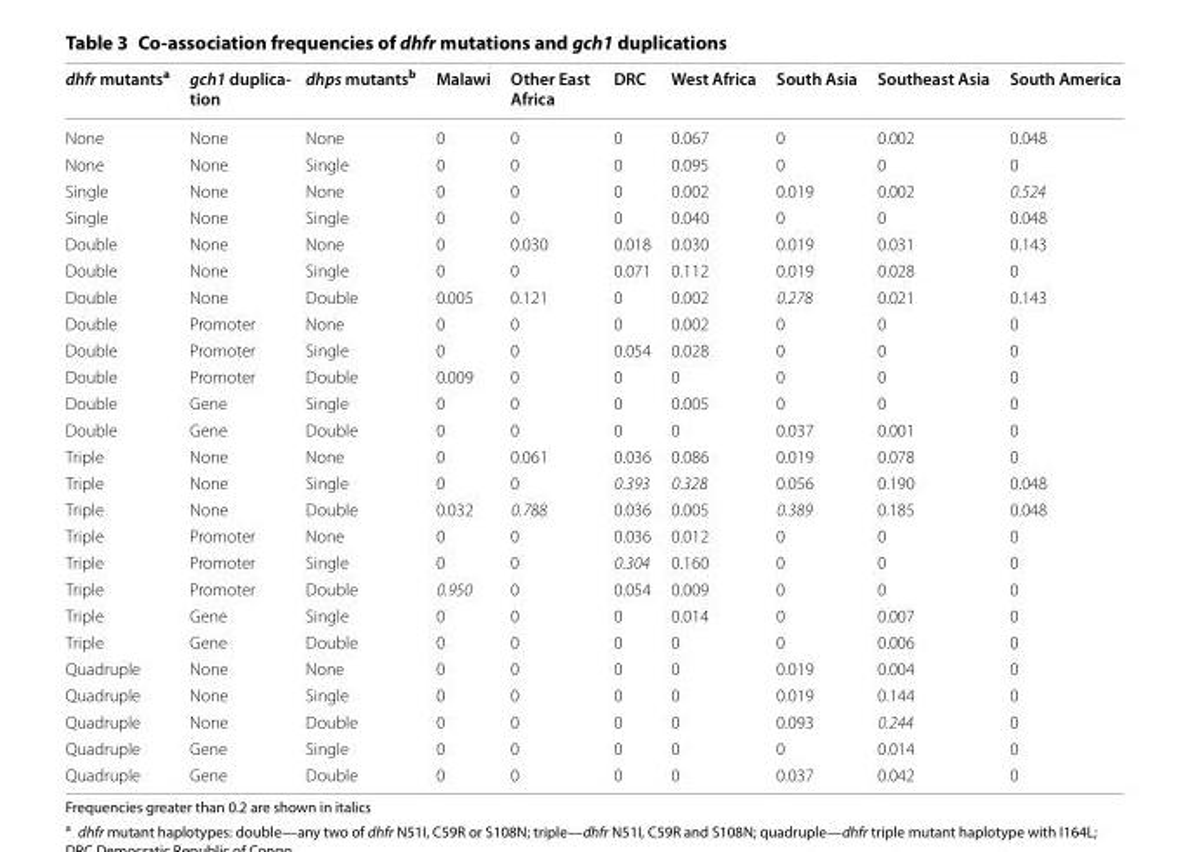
<table><thead><tr><td>dhfr mutants<sup>a</sup></td><td>gch1 duplica‑ tion</td><td>dhps mutants<sup>b</sup></td><td>Malawi</td><td>Other East Africa</td><td>DRC</td><td>West Africa</td><td>South Asia</td><td>Southeast Asia</td><td>South America</td></tr></thead><tbody><tr><td>None</td><td>None</td><td>None</td><td>0</td><td>0</td><td>0</td><td>0.067</td><td>0</td><td>0.002</td><td>0.048</td></tr><tr><td>None</td><td>None</td><td>Single</td><td>0</td><td>0</td><td>0</td><td>0.095</td><td>0</td><td>0</td><td>0</td></tr><tr><td>Single</td><td>None</td><td>None</td><td>0</td><td>0</td><td>0</td><td>0.002</td><td>0.019</td><td>0.002</td><td>0.524</td></tr><tr><td>Single</td><td>None</td><td>Single</td><td>0</td><td>0</td><td>0</td><td>0.040</td><td>0</td><td>0</td><td>0.048</td></tr><tr><td>Double</td><td>None</td><td>None</td><td>0</td><td>0.030</td><td>0.018</td><td>0.030</td><td>0.019</td><td>0.031</td><td>0.143</td></tr><tr><td>Double</td><td>None</td><td>Single</td><td>0</td><td>0</td><td>0.071</td><td>0.112</td><td>0.019</td><td>0.028</td><td>0</td></tr><tr><td>Double</td><td>None</td><td>Double</td><td>0.005</td><td>0.121</td><td>0</td><td>0.002</td><td>0.278</td><td>0.021</td><td>0.143</td></tr><tr><td>Double</td><td>Promoter</td><td>None</td><td>0</td><td>0</td><td>0</td><td>0.002</td><td>0</td><td>0</td><td>0</td></tr><tr><td>Double</td><td>Promoter</td><td>Single</td><td>0</td><td>0</td><td>0.054</td><td>0.028</td><td>0</td><td>0</td><td>0</td></tr><tr><td>Double</td><td>Promoter</td><td>Double</td><td>0.009</td><td>0</td><td>0</td><td>0</td><td>0</td><td>0</td><td>0</td></tr><tr><td>Double</td><td>Gene</td><td>Single</td><td>0</td><td>0</td><td>0</td><td>0.005</td><td>0</td><td>0</td><td>0</td></tr><tr><td>Double</td><td>Gene</td><td>Double</td><td>0</td><td>0</td><td>0</td><td>0</td><td>0.037</td><td>0.001</td><td>0</td></tr><tr><td>Triple</td><td>None</td><td>None</td><td>0</td><td>0.061</td><td>0.036</td><td>0.086</td><td>0.019</td><td>0.078</td><td>0</td></tr><tr><td>Triple</td><td>None</td><td>Single</td><td>0</td><td>0</td><td>0.393</td><td>0.328</td><td>0.056</td><td>0.190</td><td>0.048</td></tr><tr><td>Triple</td><td>None</td><td>Double</td><td>0.032</td><td>0.788</td><td>0.036</td><td>0.005</td><td>0.389</td><td>0.185</td><td>0.048</td></tr><tr><td>Triple</td><td>Promoter</td><td>None</td><td>0</td><td>0</td><td>0.036</td><td>0.012</td><td>0</td><td>0</td><td>0</td></tr><tr><td>Triple</td><td>Promoter</td><td>Single</td><td>0</td><td>0</td><td>0.304</td><td>0.160</td><td>0</td><td>0</td><td>0</td></tr><tr><td>Triple</td><td>Promoter</td><td>Double</td><td>0.950</td><td>0</td><td>0.054</td><td>0.009</td><td>0</td><td>0</td><td>0</td></tr><tr><td>Triple</td><td>Gene</td><td>Single</td><td>0</td><td>0</td><td>0</td><td>0.014</td><td>0</td><td>0.007</td><td>0</td></tr><tr><td>Triple</td><td>Gene</td><td>Double</td><td>0</td><td>0</td><td>0</td><td>0</td><td>0</td><td>0.006</td><td>0</td></tr><tr><td>Quadruple</td><td>None</td><td>None</td><td>0</td><td>0</td><td>0</td><td>0</td><td>0.019</td><td>0.004</td><td>0</td></tr><tr><td>Quadruple</td><td>None</td><td>Single</td><td>0</td><td>0</td><td>0</td><td>0</td><td>0.019</td><td>0.144</td><td>0</td></tr><tr><td>Quadruple</td><td>None</td><td>Double</td><td>0</td><td>0</td><td>0</td><td>0</td><td>0.093</td><td>0.244</td><td>0</td></tr><tr><td>Quadruple</td><td>Gene</td><td>Single</td><td>0</td><td>0</td><td>0</td><td>0</td><td>0</td><td>0.014</td><td>0</td></tr><tr><td>Quadruple</td><td>Gene</td><td>Double</td><td>0</td><td>0</td><td>0</td><td>0</td><td>0.037</td><td>0.042</td><td>0</td></tr></tbody></table>